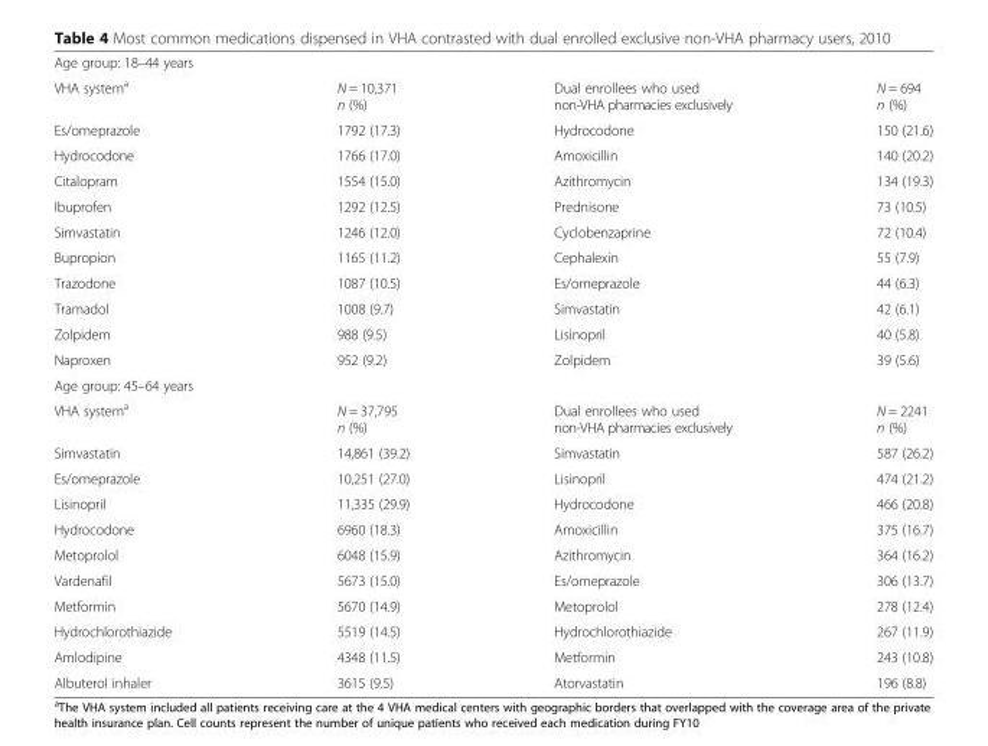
<table><tbody><tr><td colspan="4">Age group: 18–44 years</td></tr><tr><td>VHA system<sup>a</sup></td><td>N = 10,371 n (%)</td><td>Dual enrollees who used non-VHA pharmacies exclusively</td><td>N = 694 n (%)</td></tr><tr><td>Es/omeprazole</td><td>1792 (17.3)</td><td>Hydrocodone</td><td>150 (21.6)</td></tr><tr><td>Hydrocodone</td><td>1766 (17.0)</td><td>Amoxicillin</td><td>140 (20.2)</td></tr><tr><td>Citalopram</td><td>1554 (15.0)</td><td>Azithromycin</td><td>134 (19.3)</td></tr><tr><td>Ibuprofen</td><td>1292 (12.5)</td><td>Prednisone</td><td>73 (10.5)</td></tr><tr><td>Simvastatin</td><td>1246 (12.0)</td><td>Cyclobenzaprine</td><td>72 (10.4)</td></tr><tr><td>Bupropion</td><td>1165 (11.2)</td><td>Cephalexin</td><td>55 (7.9)</td></tr><tr><td>Trazodone</td><td>1087 (10.5)</td><td>Es/omeprazole</td><td>44 (6.3)</td></tr><tr><td>Tramadol</td><td>1008 (9.7)</td><td>Simvastatin</td><td>42 (6.1)</td></tr><tr><td>Zolpidem</td><td>988 (9.5)</td><td>Lisinopril</td><td>40 (5.8)</td></tr><tr><td>Naproxen</td><td>952 (9.2)</td><td>Zolpidem</td><td>39 (5.6)</td></tr><tr><td colspan="4">Age group: 45–64 years</td></tr><tr><td>VHA system<sup>a</sup></td><td>N = 37,795 n (%)</td><td>Dual enrollees who used non-VHA pharmacies exclusively</td><td>N = 2241 n (%)</td></tr><tr><td>Simvastatin</td><td>14,861 (39.2)</td><td>Simvastatin</td><td>587 (26.2)</td></tr><tr><td>Es/omeprazole</td><td>10,251 (27.0)</td><td>Lisinopril</td><td>474 (21.2)</td></tr><tr><td>Lisinopril</td><td>11,335 (29.9)</td><td>Hydrocodone</td><td>466 (20.8)</td></tr><tr><td>Hydrocodone</td><td>6960 (18.3)</td><td>Amoxicillin</td><td>375 (16.7)</td></tr><tr><td>Metoprolol</td><td>6048 (15.9)</td><td>Azithromycin</td><td>364 (16.2)</td></tr><tr><td>Vardenafil</td><td>5673 (15.0)</td><td>Es/omeprazole</td><td>306 (13.7)</td></tr><tr><td>Metformin</td><td>5670 (14.9)</td><td>Metoprolol</td><td>278 (12.4)</td></tr><tr><td>Hydrochlorothiazide</td><td>5519 (14.5)</td><td>Hydrochlorothiazide</td><td>267 (11.9)</td></tr><tr><td>Amlodipine</td><td>4348 (11.5)</td><td>Metformin</td><td>243 (10.8)</td></tr><tr><td>Albuterol inhaler</td><td>3615 (9.5)</td><td>Atorvastatin</td><td>196 (8.8)</td></tr></tbody></table>